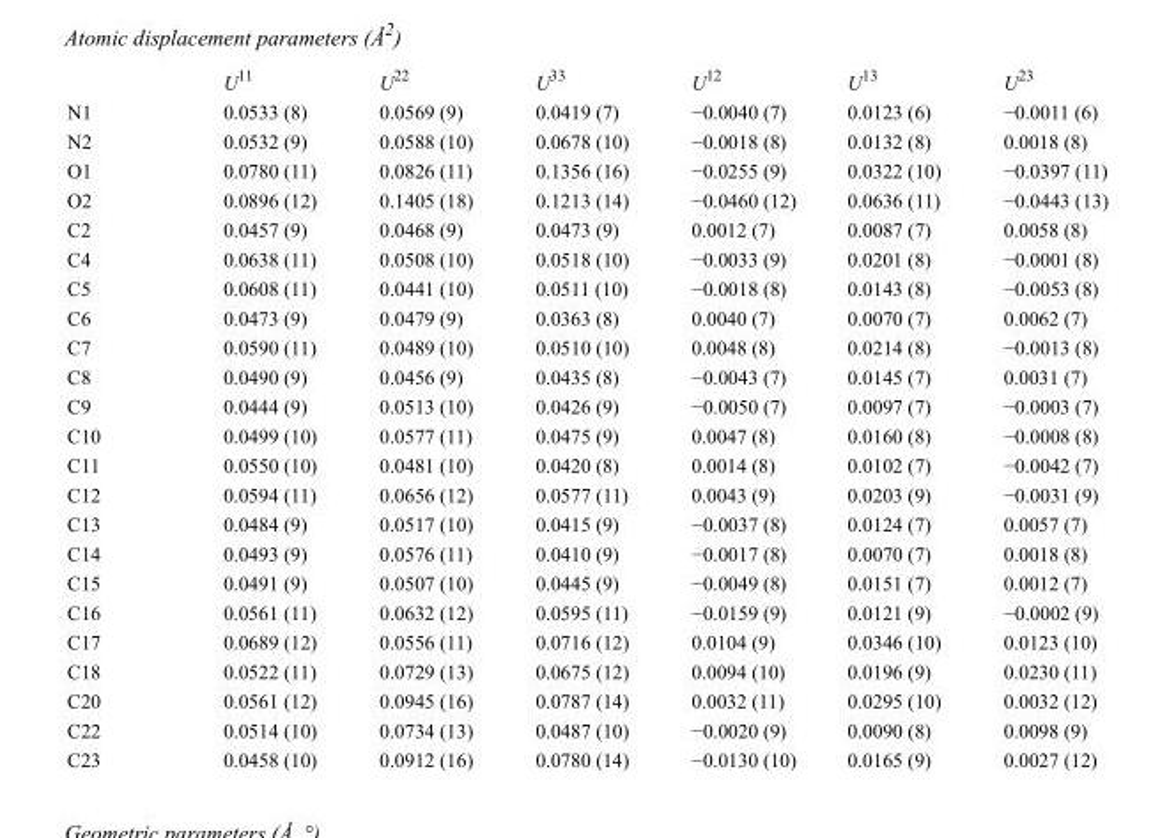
<table><thead><tr><td></td><td>U<sup>11</sup></td><td>U<sup>22</sup></td><td>U<sup>33</sup></td><td>U<sup>12</sup></td><td>U<sup>13</sup></td><td>U<sup>23</sup></td></tr></thead><tbody><tr><td>N1</td><td>0.0533 (8)</td><td>0.0569 (9)</td><td>0.0419 (7)</td><td>−0.0040 (7)</td><td>0.0123 (6)</td><td>−0.0011 (6)</td></tr><tr><td>N2</td><td>0.0532 (9)</td><td>0.0588 (10)</td><td>0.0678 (10)</td><td>−0.0018 (8)</td><td>0.0132 (8)</td><td>0.0018 (8)</td></tr><tr><td>O1</td><td>0.0780 (11)</td><td>0.0826 (11)</td><td>0.1356 (16)</td><td>−0.0255 (9)</td><td>0.0322 (10)</td><td>−0.0397 (11)</td></tr><tr><td>O2</td><td>0.0896 (12)</td><td>0.1405 (18)</td><td>0.1213 (14)</td><td>−0.0460 (12)</td><td>0.0636 (11)</td><td>−0.0443 (13)</td></tr><tr><td>C2</td><td>0.0457 (9)</td><td>0.0468 (9)</td><td>0.0473 (9)</td><td>0.0012 (7)</td><td>0.0087 (7)</td><td>0.0058 (8)</td></tr><tr><td>C4</td><td>0.0638 (11)</td><td>0.0508 (10)</td><td>0.0518 (10)</td><td>−0.0033 (9)</td><td>0.0201 (8)</td><td>−0.0001 (8)</td></tr><tr><td>C5</td><td>0.0608 (11)</td><td>0.0441 (10)</td><td>0.0511 (10)</td><td>−0.0018 (8)</td><td>0.0143 (8)</td><td>−0.0053 (8)</td></tr><tr><td>C6</td><td>0.0473 (9)</td><td>0.0479 (9)</td><td>0.0363 (8)</td><td>0.0040 (7)</td><td>0.0070 (7)</td><td>0.0062 (7)</td></tr><tr><td>C7</td><td>0.0590 (11)</td><td>0.0489 (10)</td><td>0.0510 (10)</td><td>0.0048 (8)</td><td>0.0214 (8)</td><td>−0.0013 (8)</td></tr><tr><td>C8</td><td>0.0490 (9)</td><td>0.0456 (9)</td><td>0.0435 (8)</td><td>−0.0043 (7)</td><td>0.0145 (7)</td><td>0.0031 (7)</td></tr><tr><td>C9</td><td>0.0444 (9)</td><td>0.0513 (10)</td><td>0.0426 (9)</td><td>−0.0050 (7)</td><td>0.0097 (7)</td><td>−0.0003 (7)</td></tr><tr><td>C10</td><td>0.0499 (10)</td><td>0.0577 (11)</td><td>0.0475 (9)</td><td>0.0047 (8)</td><td>0.0160 (8)</td><td>−0.0008 (8)</td></tr><tr><td>C11</td><td>0.0550 (10)</td><td>0.0481 (10)</td><td>0.0420 (8)</td><td>0.0014 (8)</td><td>0.0102 (7)</td><td>−0.0042 (7)</td></tr><tr><td>C12</td><td>0.0594 (11)</td><td>0.0656 (12)</td><td>0.0577 (11)</td><td>0.0043 (9)</td><td>0.0203 (9)</td><td>−0.0031 (9)</td></tr><tr><td>C13</td><td>0.0484 (9)</td><td>0.0517 (10)</td><td>0.0415 (9)</td><td>−0.0037 (8)</td><td>0.0124 (7)</td><td>0.0057 (7)</td></tr><tr><td>C14</td><td>0.0493 (9)</td><td>0.0576 (11)</td><td>0.0410 (9)</td><td>−0.0017 (8)</td><td>0.0070 (7)</td><td>0.0018 (8)</td></tr><tr><td>C15</td><td>0.0491 (9)</td><td>0.0507 (10)</td><td>0.0445 (9)</td><td>−0.0049 (8)</td><td>0.0151 (7)</td><td>0.0012 (7)</td></tr><tr><td>C16</td><td>0.0561 (11)</td><td>0.0632 (12)</td><td>0.0595 (11)</td><td>−0.0159 (9)</td><td>0.0121 (9)</td><td>−0.0002 (9)</td></tr><tr><td>C17</td><td>0.0689 (12)</td><td>0.0556 (11)</td><td>0.0716 (12)</td><td>0.0104 (9)</td><td>0.0346 (10)</td><td>0.0123 (10)</td></tr><tr><td>C18</td><td>0.0522 (11)</td><td>0.0729 (13)</td><td>0.0675 (12)</td><td>0.0094 (10)</td><td>0.0196 (9)</td><td>0.0230 (11)</td></tr><tr><td>C20</td><td>0.0561 (12)</td><td>0.0945 (16)</td><td>0.0787 (14)</td><td>0.0032 (11)</td><td>0.0295 (10)</td><td>0.0032 (12)</td></tr><tr><td>C22</td><td>0.0514 (10)</td><td>0.0734 (13)</td><td>0.0487 (10)</td><td>−0.0020 (9)</td><td>0.0090 (8)</td><td>0.0098 (9)</td></tr><tr><td>C23</td><td>0.0458 (10)</td><td>0.0912 (16)</td><td>0.0780 (14)</td><td>−0.0130 (10)</td><td>0.0165 (9)</td><td>0.0027 (12)</td></tr></tbody></table>